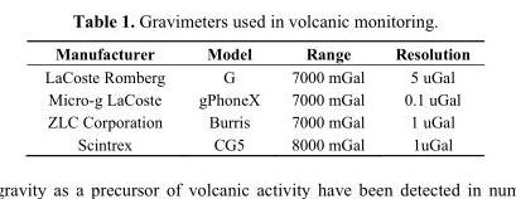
<table><thead><tr><td>Manufacturer</td><td>Model</td><td>Range</td><td>Resolution</td></tr></thead><tbody><tr><td>LaCoste Romberg</td><td>G</td><td>7000 mGal</td><td>5 uGal</td></tr><tr><td>Micro-g LaCoste</td><td>gPhoneX</td><td>7000 mGal</td><td>0.1 uGal</td></tr><tr><td>ZLC Corporation</td><td>Burris</td><td>7000 mGal</td><td>1 uGal</td></tr><tr><td>Scintrex</td><td>CG5</td><td>8000 mGal</td><td>1uGal</td></tr></tbody></table>